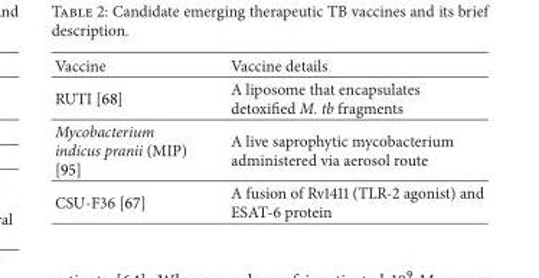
<table><thead><tr><td>Vaccine</td><td>Vaccine details</td></tr></thead><tbody><tr><td>RUTI [68]</td><td>A liposome that encapsulates detoxified M. tb fragments</td></tr><tr><td>Mycobacterium indicus pranii (MIP) [95]</td><td>A live saprophytic mycobacterium administered via aerosol route</td></tr><tr><td>CSU-F36 [67]</td><td>A fusion of Rv1411 (TLR-2 agonist) and ESAT-6 protein</td></tr></tbody></table>